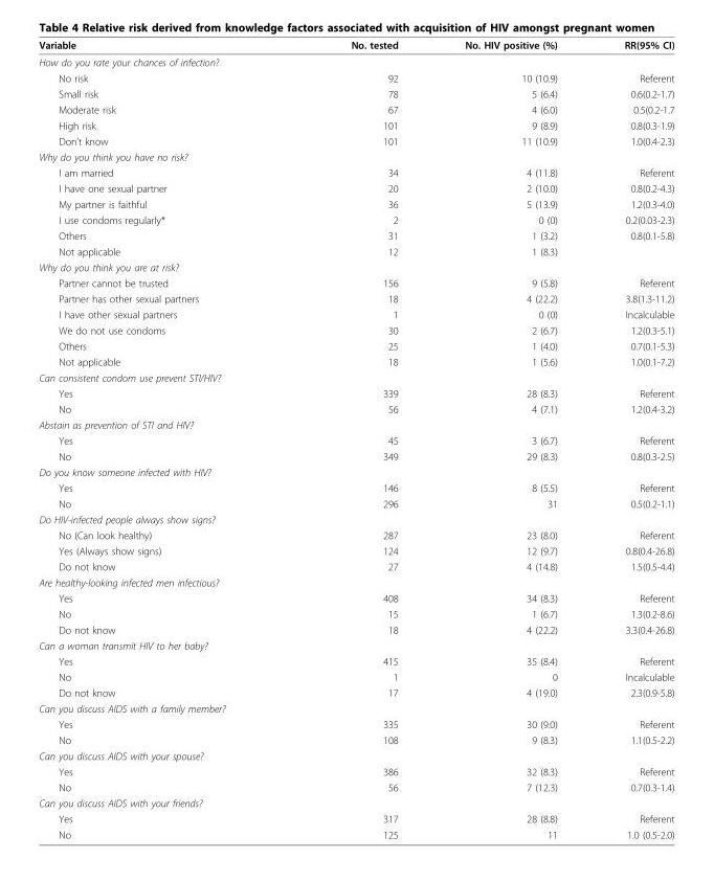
<table><thead><tr><td>Variable</td><td>No. tested</td><td>No. HIV positive (%)</td><td>RR(95% CI)</td></tr></thead><tbody><tr><td colspan="4">How do you rate your chances of infection?</td></tr><tr><td>No risk</td><td>92</td><td>10 (10.9)</td><td>Referent</td></tr><tr><td>Small risk</td><td>78</td><td>5 (6.4)</td><td>0.6(0.2-1.7)</td></tr><tr><td>Moderate risk</td><td>67</td><td>4 (6.0)</td><td>0.5(0.2-1.7</td></tr><tr><td>High risk</td><td>101</td><td>9 (8.9)</td><td>0.8(0.3-1.9)</td></tr><tr><td>Don’t know</td><td>101</td><td>11 (10.9)</td><td>1.0(0.4-2.3)</td></tr><tr><td colspan="4">Why do you think you have no risk?</td></tr><tr><td>I am married</td><td>34</td><td>4 (11.8)</td><td>Referent</td></tr><tr><td>I have one sexual partner</td><td>20</td><td>2 (10.0)</td><td>0.8(0.2-4.3)</td></tr><tr><td>My partner is faithful</td><td>36</td><td>5 (13.9)</td><td>1.2(0.3-4.0)</td></tr><tr><td>I use condoms regularly*</td><td>2</td><td>0 (0)</td><td>0.2(0.03-2.3)</td></tr><tr><td>Others</td><td>31</td><td>1 (3.2)</td><td>0.8(0.1-5.8)</td></tr><tr><td>Not applicable</td><td>12</td><td>1 (8.3)</td><td></td></tr><tr><td colspan="4">Why do you think you are at risk?</td></tr><tr><td>Partner cannot be trusted</td><td>156</td><td>9 (5.8)</td><td>Referent</td></tr><tr><td>Partner has other sexual partners</td><td>18</td><td>4 (22.2)</td><td>3.8(1.3-11.2)</td></tr><tr><td>I have other sexual partners</td><td>1</td><td>0 (0)</td><td>Incalculable</td></tr><tr><td>We do not use condoms</td><td>30</td><td>2 (6.7)</td><td>1.2(0.3-5.1)</td></tr><tr><td>Others</td><td>25</td><td>1 (4.0)</td><td>0.7(0.1-5.3)</td></tr><tr><td>Not applicable</td><td>18</td><td>1 (5.6)</td><td>1.0(0.1-7.2)</td></tr><tr><td colspan="4">Can consistent condom use prevent STI/HIV?</td></tr><tr><td>Yes</td><td>339</td><td>28 (8.3)</td><td>Referent</td></tr><tr><td>No</td><td>56</td><td>4 (7.1)</td><td>1.2(0.4-3.2)</td></tr><tr><td colspan="4">Abstain as prevention of STI and HIV?</td></tr><tr><td>Yes</td><td>45</td><td>3 (6.7)</td><td>Referent</td></tr><tr><td>No</td><td>349</td><td>29 (8.3)</td><td>0.8(0.3-2.5)</td></tr><tr><td colspan="4">Do you know someone infected with HIV?</td></tr><tr><td>Yes</td><td>146</td><td>8 (5.5)</td><td>Referent</td></tr><tr><td>No</td><td>296</td><td>31</td><td>0.5(0.2-1.1)</td></tr><tr><td colspan="4">Do HIV-infected people always show signs?</td></tr><tr><td>No (Can look healthy)</td><td>287</td><td>23 (8.0)</td><td>Referent</td></tr><tr><td>Yes (Always show signs)</td><td>124</td><td>12 (9.7)</td><td>0.8(0.4-26.8)</td></tr><tr><td>Do not know</td><td>27</td><td>4 (14.8)</td><td>1.5(0.5-4.4)</td></tr><tr><td colspan="4">Are healthy-looking infected men infectious?</td></tr><tr><td>Yes</td><td>408</td><td>34 (8.3)</td><td>Referent</td></tr><tr><td>No</td><td>15</td><td>1 (6.7)</td><td>1.3(0.2-8.6)</td></tr><tr><td>Do not know</td><td>18</td><td>4 (22.2)</td><td>3.3(0.4-26.8)</td></tr><tr><td colspan="4">Can a woman transmit HIV to her baby?</td></tr><tr><td>Yes</td><td>415</td><td>35 (8.4)</td><td>Referent</td></tr><tr><td>No</td><td>1</td><td>0</td><td>Incalculable</td></tr><tr><td>Do not know</td><td>17</td><td>4 (19.0)</td><td>2.3(0.9-5.8)</td></tr><tr><td colspan="4">Can you discuss AIDS with a family member?</td></tr><tr><td>Yes</td><td>335</td><td>30 (9.0)</td><td>Referent</td></tr><tr><td>No</td><td>108</td><td>9 (8.3)</td><td>1.1(0.5-2.2)</td></tr><tr><td colspan="4">Can you discuss AIDS with your spouse?</td></tr><tr><td>Yes</td><td>386</td><td>32 (8.3)</td><td>Referent</td></tr><tr><td>No</td><td>56</td><td>7 (12.3)</td><td>0.7(0.3-1.4)</td></tr><tr><td colspan="4">Can you discuss AIDS with your friends?</td></tr><tr><td>Yes</td><td>317</td><td>28 (8.8)</td><td>Referent</td></tr><tr><td>No</td><td>125</td><td>11</td><td>1.0 (0.5-2.0)</td></tr></tbody></table>